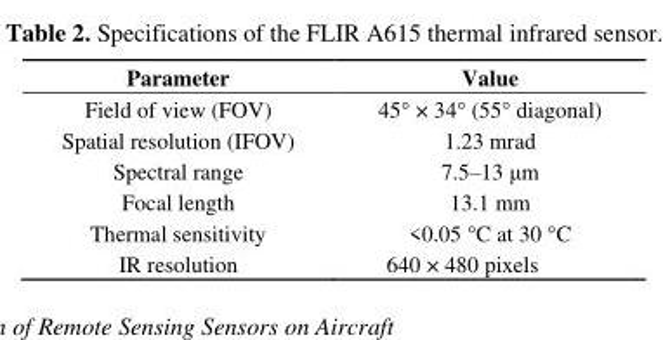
<table><thead><tr><td>Parameter</td><td>Value</td></tr></thead><tbody><tr><td>Field of view (FOV)</td><td>45° × 34° (55° diagonal)</td></tr><tr><td>Spatial resolution (IFOV)</td><td>1.23 mrad</td></tr><tr><td>Spectral range</td><td>7.5–13 μm</td></tr><tr><td>Focal length</td><td>13.1 mm</td></tr><tr><td>Thermal sensitivity</td><td>&lt;0.05 °C at 30 °C</td></tr><tr><td>IR resolution</td><td>640 × 480 pixels</td></tr></tbody></table>